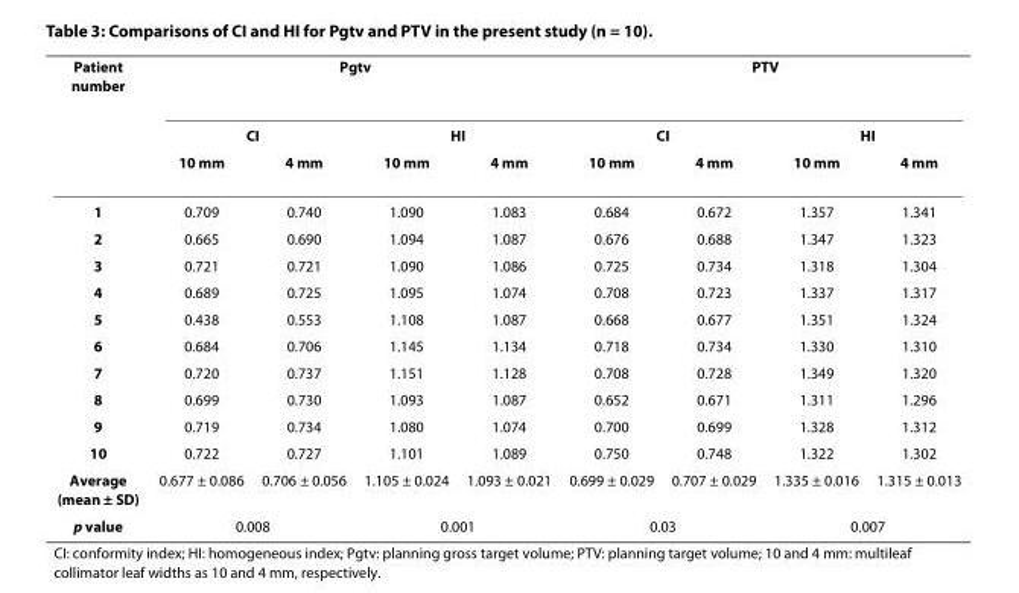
<table><thead><tr><td rowspan="3">Patient number</td><td colspan="4">Pgtv</td><td colspan="4">PTV</td></tr><tr><td colspan="2">CI</td><td colspan="2">HI</td><td colspan="2">CI</td><td colspan="2">HI</td></tr><tr><td>10 mm</td><td>4 mm</td><td>10 mm</td><td>4 mm</td><td>10 mm</td><td>4 mm</td><td>10 mm</td><td>4 mm</td></tr></thead><tbody><tr><td>1</td><td>0.709</td><td>0.740</td><td>1.090</td><td>1.083</td><td>0.684</td><td>0.672</td><td>1.357</td><td>1.341</td></tr><tr><td>2</td><td>0.665</td><td>0.690</td><td>1.094</td><td>1.087</td><td>0.676</td><td>0.688</td><td>1.347</td><td>1.323</td></tr><tr><td>3</td><td>0.721</td><td>0.721</td><td>1.090</td><td>1.086</td><td>0.725</td><td>0.734</td><td>1.318</td><td>1.304</td></tr><tr><td>4</td><td>0.689</td><td>0.725</td><td>1.095</td><td>1.074</td><td>0.708</td><td>0.723</td><td>1.337</td><td>1.317</td></tr><tr><td>5</td><td>0.438</td><td>0.553</td><td>1.108</td><td>1.087</td><td>0.668</td><td>0.677</td><td>1.351</td><td>1.324</td></tr><tr><td>6</td><td>0.684</td><td>0.706</td><td>1.145</td><td>1.134</td><td>0.718</td><td>0.734</td><td>1.330</td><td>1.310</td></tr><tr><td>7</td><td>0.720</td><td>0.737</td><td>1.151</td><td>1.128</td><td>0.708</td><td>0.728</td><td>1.349</td><td>1.320</td></tr><tr><td>8</td><td>0.699</td><td>0.730</td><td>1.093</td><td>1.087</td><td>0.652</td><td>0.671</td><td>1.311</td><td>1.296</td></tr><tr><td>9</td><td>0.719</td><td>0.734</td><td>1.080</td><td>1.074</td><td>0.700</td><td>0.699</td><td>1.328</td><td>1.312</td></tr><tr><td>10</td><td>0.722</td><td>0.727</td><td>1.101</td><td>1.089</td><td>0.750</td><td>0.748</td><td>1.322</td><td>1.302</td></tr><tr><td>Average (mean ± SD)</td><td>0.677 ± 0.086</td><td>0.706 ± 0.056</td><td>1.105 ± 0.024</td><td>1.093 ± 0.021</td><td>0.699 ± 0.029</td><td>0.707 ± 0.029</td><td>1.335 ± 0.016</td><td>1.315 ± 0.013</td></tr><tr><td>p value</td><td colspan="2">0.008</td><td colspan="2">0.001</td><td colspan="2">0.03</td><td colspan="2">0.007</td></tr></tbody></table>